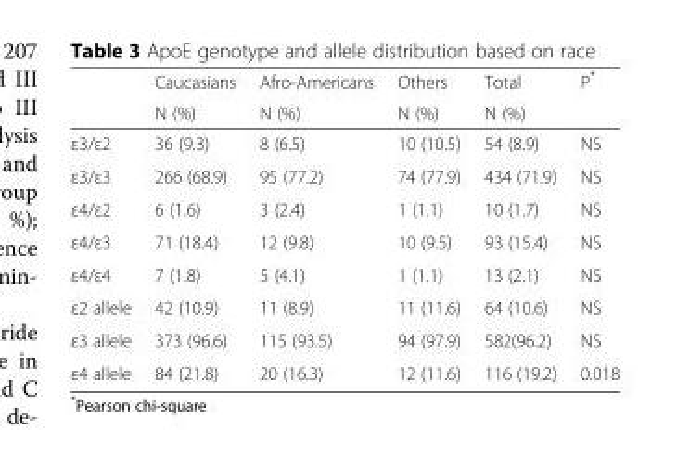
<table><thead><tr><td rowspan="2"></td><td rowspan="2">Caucasians N (%)</td><td rowspan="2">Afro-Americans N (%)</td><td rowspan="2">Others N (%)</td><td rowspan="2">Total N (%)</td><td rowspan="2">P*</td></tr><tr></tr></thead><tbody><tr><td>ε3/ε2</td><td>36 (9.3)</td><td>8 (6.5)</td><td>10 (10.5)</td><td>54 (8.9)</td><td>NS</td></tr><tr><td>ε3/ε3</td><td>266 (68.9)</td><td>95 (77.2)</td><td>74 (77.9)</td><td>434 (71.9)</td><td>NS</td></tr><tr><td>ε4/ε2</td><td>6 (1.6)</td><td>3 (2.4)</td><td>1 (1.1)</td><td>10 (1.7)</td><td>NS</td></tr><tr><td>ε4/ε3</td><td>71 (18.4)</td><td>12 (9.8)</td><td>10 (9.5)</td><td>93 (15.4)</td><td>NS</td></tr><tr><td>ε4/ε4</td><td>7 (1.8)</td><td>5 (4.1)</td><td>1 (1.1)</td><td>13 (2.1)</td><td>NS</td></tr><tr><td>ε2 allele</td><td>42 (10.9)</td><td>11 (8.9)</td><td>11 (11.6)</td><td>64 (10.6)</td><td>NS</td></tr><tr><td>ε3 allele</td><td>373 (96.6)</td><td>115 (93.5)</td><td>94 (97.9)</td><td>582(96.2)</td><td>NS</td></tr><tr><td>ε4 allele</td><td>84 (21.8)</td><td>20 (16.3)</td><td>12 (11.6)</td><td>116 (19.2)</td><td>0.018</td></tr></tbody></table>